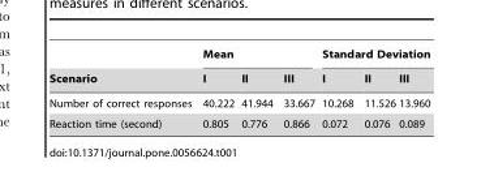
<table><thead><tr><td rowspan="2">Scenario</td><td colspan="3">Mean</td><td colspan="3">Standard Deviation</td></tr><tr><td>I</td><td>II</td><td>III</td><td>I</td><td>II</td><td>III</td></tr></thead><tbody><tr><td>Number of correct responses</td><td>40.222</td><td>41.944</td><td>33.667</td><td>10.268</td><td>11.526</td><td>13.960</td></tr><tr><td>Reaction time (second)</td><td>0.805</td><td>0.776</td><td>0.866</td><td>0.072</td><td>0.076</td><td>0.089</td></tr></tbody></table>